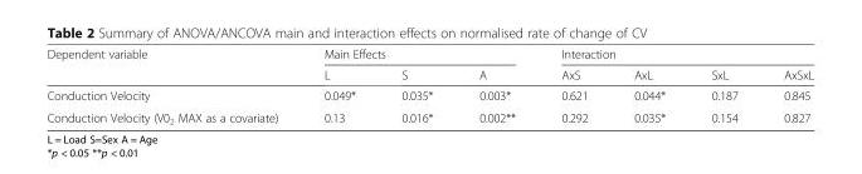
<table><thead><tr><td rowspan="2">Dependent variable</td><td colspan="3">Main Effects</td><td colspan="4">Interaction</td></tr><tr><td>L</td><td>S</td><td>A</td><td>AxS</td><td>AxL</td><td>SxL</td><td>AxSxL</td></tr></thead><tbody><tr><td>Conduction Velocity</td><td>0.049*</td><td>0.035*</td><td>0.003*</td><td>0.621</td><td>0.044*</td><td>0.187</td><td>0.845</td></tr><tr><td>Conduction Velocity (V0<sub>2</sub> MAX as a covariate)</td><td>0.13</td><td>0.016*</td><td>0.002**</td><td>0.292</td><td>0.035*</td><td>0.154</td><td>0.827</td></tr></tbody></table>